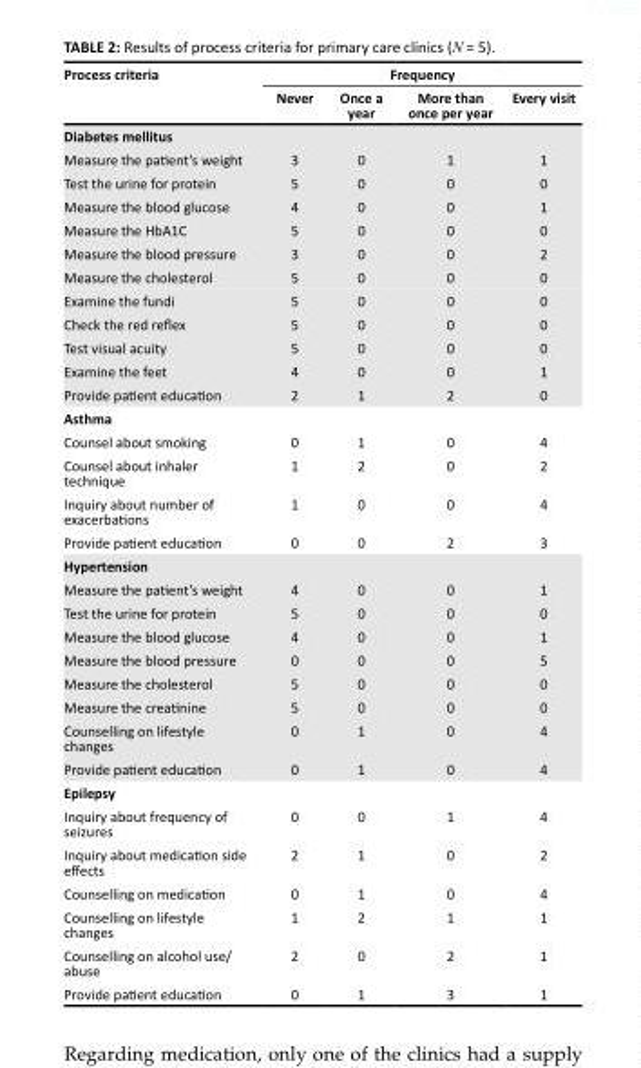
<table><thead><tr><td rowspan="2">Process criteria</td><td colspan="4">Frequency</td></tr><tr><td>Never</td><td>Once a year</td><td>More than once per year</td><td>Every visit</td></tr></thead><tbody><tr><td colspan="5">Diabetes mellitus</td></tr><tr><td>Measure the patient’s weight</td><td>3</td><td>0</td><td>1</td><td>1</td></tr><tr><td>Test the urine for protein</td><td>5</td><td>0</td><td>0</td><td>0</td></tr><tr><td>Measure the blood glucose</td><td>4</td><td>0</td><td>0</td><td>1</td></tr><tr><td>Measure the HbA1C</td><td>5</td><td>0</td><td>0</td><td>0</td></tr><tr><td>Measure the blood pressure</td><td>3</td><td>0</td><td>0</td><td>2</td></tr><tr><td>Measure the cholesterol</td><td>5</td><td>0</td><td>0</td><td>0</td></tr><tr><td>Examine the fundi</td><td>5</td><td>0</td><td>0</td><td>0</td></tr><tr><td>Check the red reflex</td><td>5</td><td>0</td><td>0</td><td>0</td></tr><tr><td>Test visual acuity</td><td>5</td><td>0</td><td>0</td><td>0</td></tr><tr><td>Examine the feet</td><td>4</td><td>0</td><td>0</td><td>1</td></tr><tr><td>Provide patient education</td><td>2</td><td>1</td><td>2</td><td>0</td></tr><tr><td colspan="5">Asthma</td></tr><tr><td>Counsel about smoking</td><td>0</td><td>1</td><td>0</td><td>4</td></tr><tr><td>Counsel about inhaler technique</td><td>1</td><td>2</td><td>0</td><td>2</td></tr><tr><td>Inquiry about number of exacerbations</td><td>1</td><td>0</td><td>0</td><td>4</td></tr><tr><td>Provide patient education</td><td>0</td><td>0</td><td>2</td><td>3</td></tr><tr><td colspan="5">Hypertension</td></tr><tr><td>Measure the patient’s weight</td><td>4</td><td>0</td><td>0</td><td>1</td></tr><tr><td>Test the urine for protein</td><td>5</td><td>0</td><td>0</td><td>0</td></tr><tr><td>Measure the blood glucose</td><td>4</td><td>0</td><td>0</td><td>1</td></tr><tr><td>Measure the blood pressure</td><td>0</td><td>0</td><td>0</td><td>5</td></tr><tr><td>Measure the cholesterol</td><td>5</td><td>0</td><td>0</td><td>0</td></tr><tr><td>Measure the creatinine</td><td>5</td><td>0</td><td>0</td><td>0</td></tr><tr><td>Counselling on lifestyle changes</td><td>0</td><td>1</td><td>0</td><td>4</td></tr><tr><td>Provide patient education</td><td>0</td><td>1</td><td>0</td><td>4</td></tr><tr><td colspan="5">Epilepsy</td></tr><tr><td>Inquiry about frequency of seizures</td><td>0</td><td>0</td><td>1</td><td>4</td></tr><tr><td>Inquiry about medication side effects</td><td>2</td><td>1</td><td>0</td><td>2</td></tr><tr><td>Counselling on medication</td><td>0</td><td>1</td><td>0</td><td>4</td></tr><tr><td>Counselling on lifestyle changes</td><td>1</td><td>2</td><td>1</td><td>1</td></tr><tr><td>Counselling on alcohol use/ abuse</td><td>2</td><td>0</td><td>2</td><td>1</td></tr><tr><td>Provide patient education</td><td>0</td><td>1</td><td>3</td><td>1</td></tr></tbody></table>